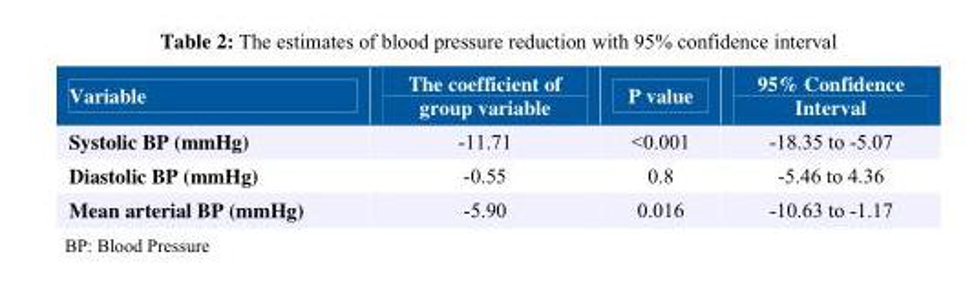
<table><thead><tr><td>Variable</td><td>The coefficient of group variable</td><td>P value</td><td>95% Confidence Interval</td></tr></thead><tbody><tr><td>Systolic BP (mmHg)</td><td>-11.71</td><td>&lt;0.001</td><td>-18.35 to -5.07</td></tr><tr><td>Diastolic BP (mmHg)</td><td>-0.55</td><td>0.8</td><td>-5.46 to 4.36</td></tr><tr><td>Mean arterial BP (mmHg)</td><td>-5.90</td><td>0.016</td><td>-10.63 to -1.17</td></tr></tbody></table>